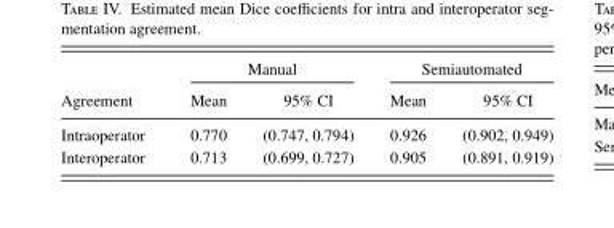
<table><thead><tr><td rowspan="2">Agreement</td><td colspan="2">Manual</td><td colspan="2">Semiautomated</td></tr><tr><td>Mean</td><td>95% CI</td><td>Mean</td><td>95% CI</td></tr></thead><tbody><tr><td>Intraoperator</td><td>0.770</td><td>(0.747, 0.794)</td><td>0.926</td><td>(0.902, 0.949)</td></tr><tr><td>Interoperator</td><td>0.713</td><td>(0.699, 0.727)</td><td>0.905</td><td>(0.891, 0.919)</td></tr></tbody></table>